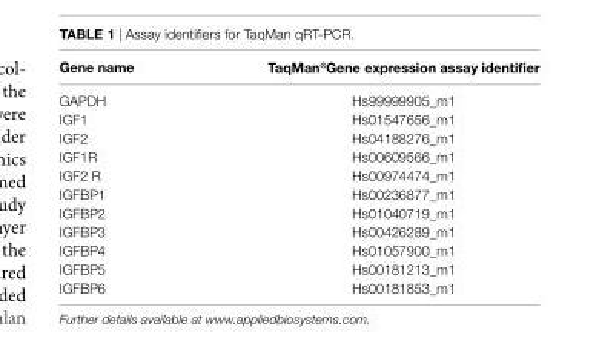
<table><thead><tr><td>gene name</td><td>TaqMan<sup>®</sup>gene expression assay identifier</td></tr></thead><tbody><tr><td>GAPDH</td><td>Hs99999905_m1</td></tr><tr><td>IGF1</td><td>Hs01547656_m1</td></tr><tr><td>IGF2</td><td>Hs04188276_m1</td></tr><tr><td>IGF1R</td><td>Hs00609566_m1</td></tr><tr><td>IGF2 R</td><td>Hs00974474_m1</td></tr><tr><td>IGFBP1</td><td>Hs00236877_m1</td></tr><tr><td>IGFBP2</td><td>Hs01040719_m1</td></tr><tr><td>IGFBP3</td><td>Hs00426289_m1</td></tr><tr><td>IGFBP4</td><td>Hs01057900_m1</td></tr><tr><td>IGFBP5</td><td>Hs00181213_m1</td></tr><tr><td>IGFBP6</td><td>Hs00181853_m1</td></tr></tbody></table>